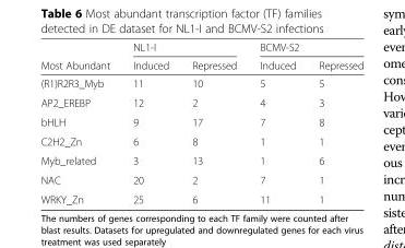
<table><thead><tr><td rowspan="2">Most Abundant</td><td colspan="2">NL1-I</td><td colspan="2">BCMV-S2</td></tr><tr><td>Induced</td><td>Repressed</td><td>Induced</td><td>Repressed</td></tr></thead><tbody><tr><td>(R1)R2R3_Myb</td><td>11</td><td>10</td><td>5</td><td>5</td></tr><tr><td>AP2_EREBP</td><td>12</td><td>2</td><td>4</td><td>3</td></tr><tr><td>bHLH</td><td>9</td><td>17</td><td>7</td><td>8</td></tr><tr><td>C2H2_Zn</td><td>6</td><td>8</td><td>1</td><td>1</td></tr><tr><td>Myb_related</td><td>3</td><td>13</td><td>1</td><td>6</td></tr><tr><td>NAC</td><td>20</td><td>2</td><td>7</td><td>1</td></tr><tr><td>WRKY_Zn</td><td>25</td><td>6</td><td>11</td><td>1</td></tr></tbody></table>